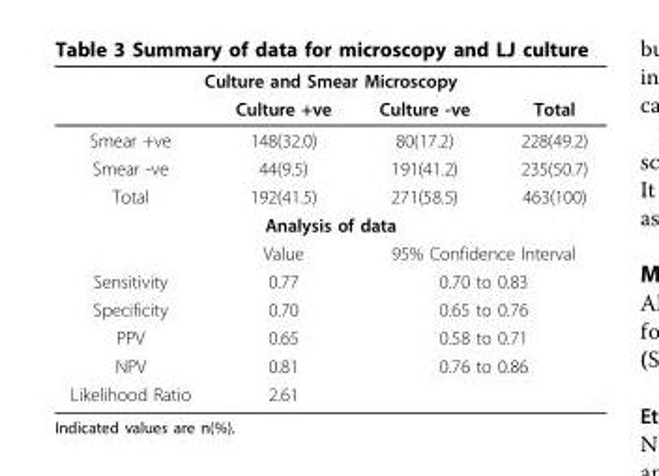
<table><thead><tr><td colspan="4">Culture and Smear Microscopy</td></tr><tr><td></td><td>Culture +ve</td><td>Culture -ve</td><td>Total</td></tr></thead><tbody><tr><td>Smear +ve</td><td>148(32.0)</td><td>80(17.2)</td><td>228(49.2)</td></tr><tr><td>Smear -ve</td><td>44(9.5)</td><td>191(41.2)</td><td>235(50.7)</td></tr><tr><td>Total</td><td>192(41.5)</td><td>271(58.5)</td><td>463(100)</td></tr><tr><td colspan="4">Analysis of data</td></tr><tr><td></td><td>Value</td><td colspan="2">95% Confidence Interval</td></tr><tr><td>Sensitivity</td><td>0.77</td><td colspan="2">0.70 to 0.83</td></tr><tr><td>Specificity</td><td>0.70</td><td colspan="2">0.65 to 0.76</td></tr><tr><td>PPV</td><td>0.65</td><td colspan="2">0.58 to 0.71</td></tr><tr><td>NPV</td><td>0.81</td><td colspan="2">0.76 to 0.86</td></tr><tr><td>Likelihood Ratio</td><td>2.61</td><td></td><td></td></tr></tbody></table>